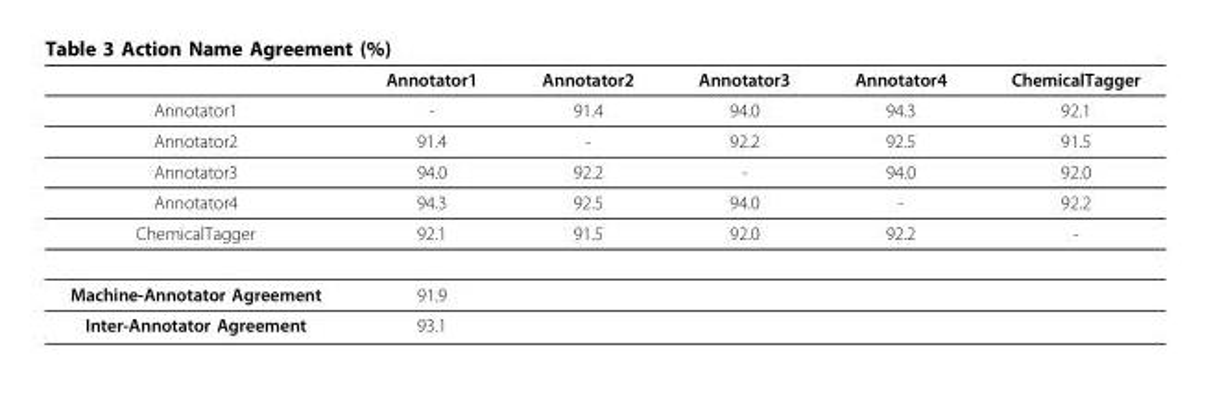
<table><thead><tr><td></td><td>Annotator1</td><td>Annotator2</td><td>Annotator3</td><td>Annotator4</td><td>ChemicalTagger</td></tr></thead><tbody><tr><td>Annotator1</td><td>-</td><td>91.4</td><td>94.0</td><td>94.3</td><td>92.1</td></tr><tr><td>Annotator2</td><td>91.4</td><td>-</td><td>92.2</td><td>92.5</td><td>91.5</td></tr><tr><td>Annotator3</td><td>94.0</td><td>92.2</td><td>-</td><td>94.0</td><td>92.0</td></tr><tr><td>Annotator4</td><td>94.3</td><td>92.5</td><td>94.0</td><td>-</td><td>92.2</td></tr><tr><td>ChemicalTagger</td><td>92.1</td><td>91.5</td><td>92.0</td><td>92.2</td><td>-</td></tr><tr><td>Machine-Annotator Agreement</td><td>91.9</td><td></td><td></td><td></td><td></td></tr><tr><td>Inter-Annotator Agreement</td><td>93.1</td><td></td><td></td><td></td><td></td></tr></tbody></table>